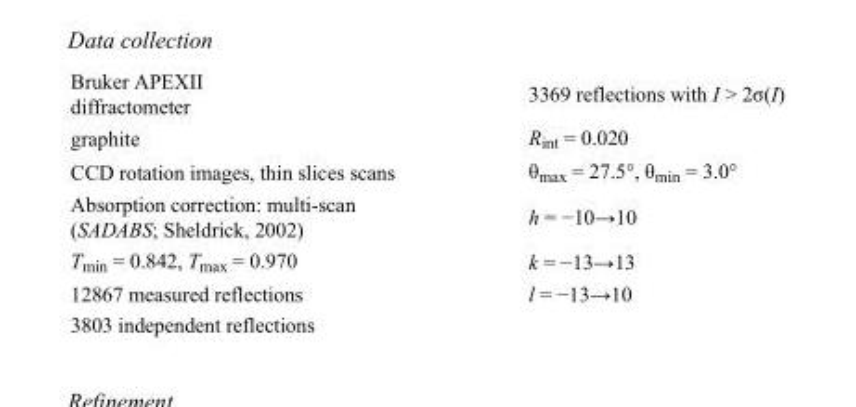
<table><tbody><tr><td>Bruker APEXII diffractometer</td><td>3369 reflections with I &gt; 2σ(I)</td></tr><tr><td>graphite</td><td>R<sub>int</sub> = 0.020</td></tr><tr><td>CCD rotation images, thin slices scans</td><td>θ<sub>max</sub> = 27.5°, θ<sub>min</sub> = 3.0°</td></tr><tr><td>Absorption correction: multi-scan (SADABS; Sheldrick, 2002)</td><td>h = −10→10</td></tr><tr><td>T<sub>min</sub> = 0.842, T<sub>max</sub> = 0.970</td><td>k = −13→13</td></tr><tr><td>12867 measured reflections</td><td>l = −13→10</td></tr><tr><td>3803 independent reflections</td><td></td></tr></tbody></table>